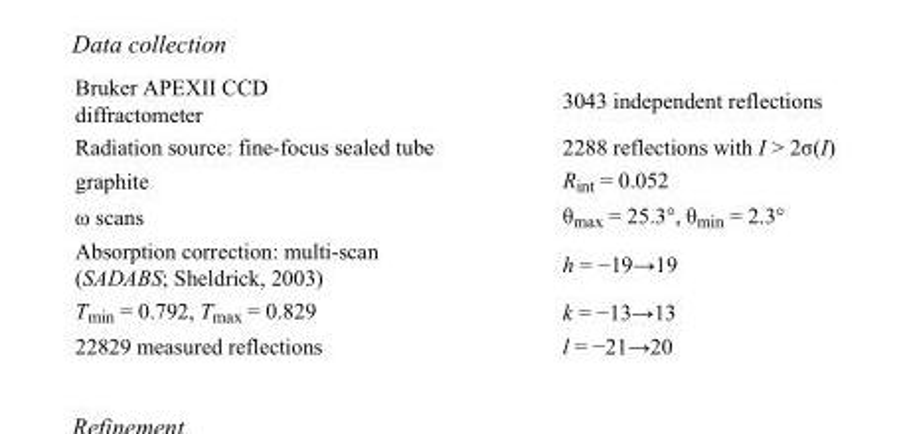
<table><tbody><tr><td>Bruker APEXII CCD diffractometer</td><td>3043 independent reflections</td></tr><tr><td>Radiation source: fine-focus sealed tube</td><td>2288 reflections with I &gt; 2σ(I)</td></tr><tr><td>graphite</td><td>R<sub>int</sub> = 0.052</td></tr><tr><td>ω scans</td><td>θ<sub>max</sub> = 25.3°, θ<sub>min</sub> = 2.3°</td></tr><tr><td>Absorption correction: multi-scan (SADABS; Sheldrick, 2003)</td><td>h = −19→19</td></tr><tr><td>T<sub>min</sub> = 0.792, T<sub>max</sub> = 0.829</td><td>k = −13→13</td></tr><tr><td>22829 measured reflections</td><td>l = −21→20</td></tr></tbody></table>